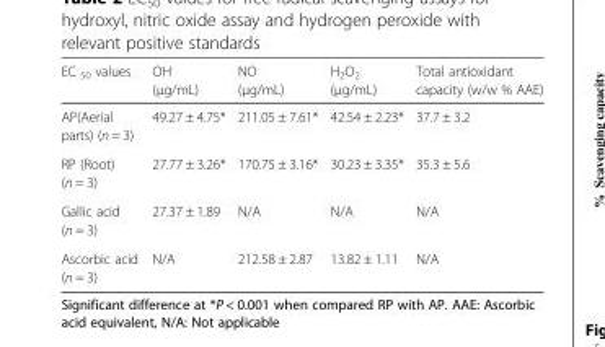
<table><thead><tr><td>EC <sub>50</sub> values</td><td>OH<sup>.</sup> (μg/mL)</td><td>NO<sup>.</sup> (μg/mL)</td><td>H<sub>2</sub>O<sub>2</sub> (μg/mL)</td><td>Total antioxidant capacity (w/w % AAE)</td></tr></thead><tbody><tr><td>AP(Aerial parts) (n = 3)</td><td>49.27 ± 4.75*</td><td>211.05 ± 7.61*</td><td>42.54 ± 2.23*</td><td>37.7 ± 3.2</td></tr><tr><td>RP (Root) (n = 3)</td><td>27.77 ± 3.26*</td><td>170.75 ± 3.16*</td><td>30.23 ± 3.35*</td><td>35.3 ± 5.6</td></tr><tr><td>Gallic acid (n = 3)</td><td>27.37 ± 1.89</td><td>N/A</td><td>N/A</td><td>N/A</td></tr><tr><td>Ascorbic acid (n = 3)</td><td>N/A</td><td>212.58 ± 2.87</td><td>13.82 ± 1.11</td><td>N/A</td></tr></tbody></table>